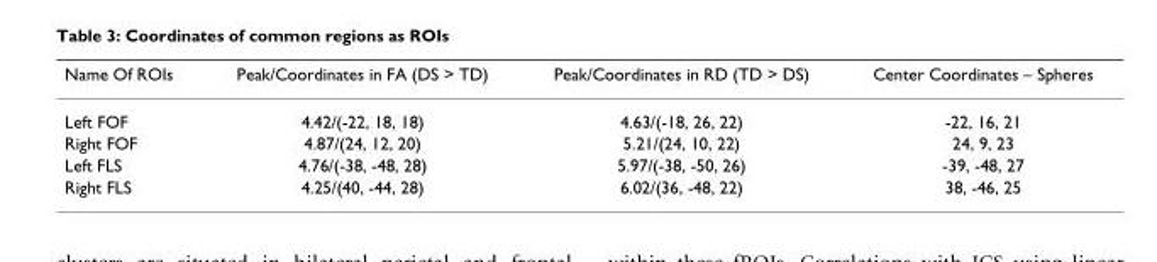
<table><thead><tr><td>Name Of ROIs</td><td>Peak/Coordinates in FA (DS &gt; TD)</td><td>Peak/Coordinates in RD (TD &gt; DS)</td><td>Center Coordinates – Spheres</td></tr></thead><tbody><tr><td>Left FOF</td><td>4.42/(-22, 18, 18)</td><td>4.63/(-18, 26, 22)</td><td>-22, 16, 21</td></tr><tr><td>Right FOF</td><td>4.87/(24, 12, 20)</td><td>5.21/(24, 10, 22)</td><td>24, 9, 23</td></tr><tr><td>Left FLS</td><td>4.76/(-38, -48, 28)</td><td>5.97/(-38, -50, 26)</td><td>-39, -48, 27</td></tr><tr><td>Right FLS</td><td>4.25/(40, -44, 28)</td><td>6.02/(36, -48, 22)</td><td>38, -46, 25</td></tr></tbody></table>